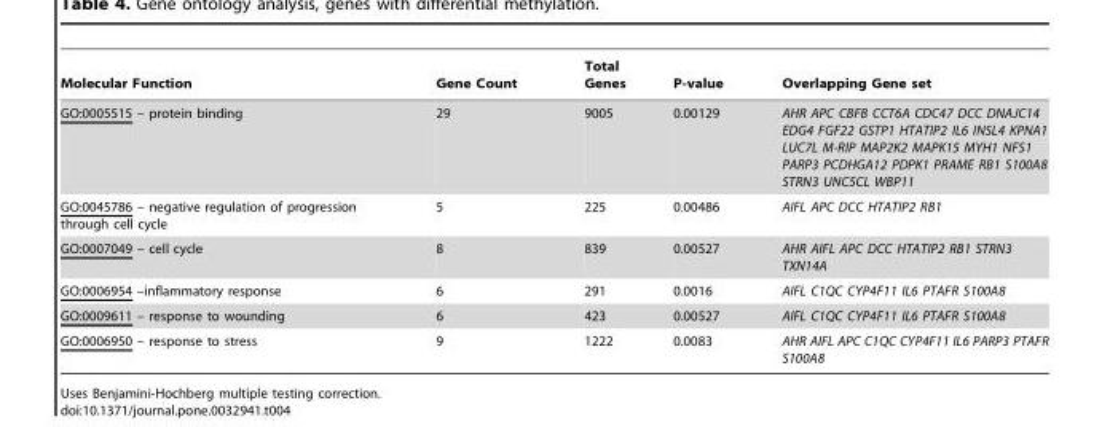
<table><thead><tr><td>Molecular Function</td><td>Gene Count</td><td>Total Genes</td><td>P-value</td><td>Overlapping Gene set</td></tr></thead><tbody><tr><td>GO:0005515 – protein binding</td><td>29</td><td>9005</td><td>0.00129</td><td>AHR APC CBFB CCT6A CDC47 DCC DNAJC14 EDG4 FGF22 GSTP1 HTATIP2 IL6 INSL4 KPNA1 LUC7L M-RIP MAP2K2 MAPK15 MYH1 NFS1 PARP3 PCDHGA12 PDPK1 PRAME RB1 S100A8 STRN3 UNC5CL WBP11</td></tr><tr><td>GO:0045786 – negative regulation of progression through cell cycle</td><td>5</td><td>225</td><td>0.00486</td><td>AIFL APC DCC HTATIP2 RB1</td></tr><tr><td>GO:0007049 – cell cycle</td><td>8</td><td>839</td><td>0.00527</td><td>AHR AIFL APC DCC HTATIP2 RB1 STRN3 TXN14A</td></tr><tr><td>GO:0006954 –inflammatory response</td><td>6</td><td>291</td><td>0.0016</td><td>AIFL C1QC CYP4F11 IL6 PTAFR S100A8</td></tr><tr><td>GO:0009611 – response to wounding</td><td>6</td><td>423</td><td>0.00527</td><td>AIFL C1QC CYP4F11 IL6 PTAFR S100A8</td></tr><tr><td>GO:0006950 – response to stress</td><td>9</td><td>1222</td><td>0.0083</td><td>AHR AIFL APC C1QC CYP4F11 IL6 PARP3 PTAFR S100A8</td></tr></tbody></table>